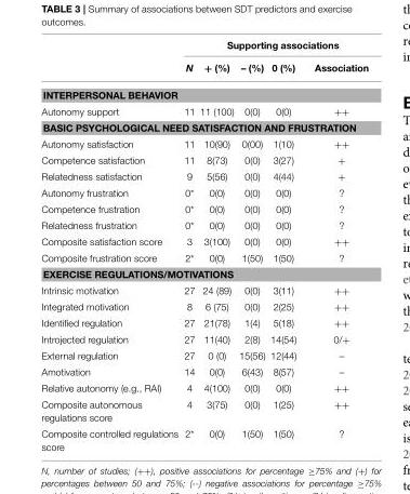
<table><thead><tr><td rowspan="2"></td><td colspan="5">Supporting associations</td></tr><tr><td>N</td><td>+ (%)</td><td>– (%)</td><td>0 (%)</td><td>Association</td></tr></thead><tbody><tr><td colspan="6">INTERPERSONAL BEHAVIOR</td></tr><tr><td>Autonomy support</td><td>11</td><td>11 (100)</td><td>0(0)</td><td>0(0)</td><td>++</td></tr><tr><td colspan="6">BASIC PSYCHOLOGICAL NEED SATISFACTION AND FRUSTRATION</td></tr><tr><td>Autonomy satisfaction</td><td>11</td><td>10(90)</td><td>0(00)</td><td>1(10)</td><td>++</td></tr><tr><td>Competence satisfaction</td><td>11</td><td>8(73)</td><td>0(0)</td><td>3(27)</td><td>+</td></tr><tr><td>Relatedness satisfaction</td><td>9</td><td>5(56)</td><td>0(0)</td><td>4(44)</td><td>+</td></tr><tr><td>Autonomy frustration</td><td>0*</td><td>0(0)</td><td>0(0)</td><td>0(0)</td><td>?</td></tr><tr><td>Competence frustration</td><td>0*</td><td>0(0)</td><td>0(0)</td><td>0(0)</td><td>?</td></tr><tr><td>Relatedness frustration</td><td>0*</td><td>0(0)</td><td>0(0)</td><td>0(0)</td><td>?</td></tr><tr><td>Composite satisfaction score</td><td>3</td><td>3(100)</td><td>0(0)</td><td>0(0)</td><td>++</td></tr><tr><td>Composite frustration score</td><td>2*</td><td>0(0)</td><td>1(50)</td><td>1(50)</td><td>?</td></tr><tr><td colspan="6">EXERCISE REGULATIONS/MOTIVATIONS</td></tr><tr><td>Intrinsic motivation</td><td>27</td><td>24 (89)</td><td>0(0)</td><td>3(11)</td><td>++</td></tr><tr><td>Integrated motivation</td><td>8</td><td>6 (75)</td><td>0(0)</td><td>2(25)</td><td>++</td></tr><tr><td>Identified regulation</td><td>27</td><td>21(78)</td><td>1(4)</td><td>5(18)</td><td>++</td></tr><tr><td>Introjected regulation</td><td>27</td><td>11(40)</td><td>2(8)</td><td>14(54)</td><td>0/+</td></tr><tr><td>External regulation</td><td>27</td><td>0 (0)</td><td>15(56)</td><td>12(44)</td><td>–</td></tr><tr><td>Amotivation</td><td>14</td><td>0(0)</td><td>6(43)</td><td>8(57)</td><td>–</td></tr><tr><td>Relative autonomy (e.g., RAI)</td><td>4</td><td>4(100)</td><td>0(0)</td><td>0(0)</td><td>++</td></tr><tr><td>Composite autonomous regulations score</td><td>4</td><td>3(75)</td><td>0(0)</td><td>1(25)</td><td>++</td></tr><tr><td>Composite controlled regulations score</td><td>2*</td><td>0(0)</td><td>1(50)</td><td>1(50)</td><td>?</td></tr></tbody></table>